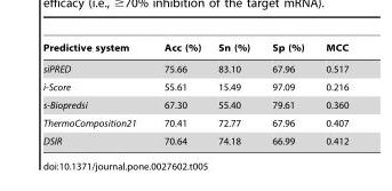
<table><thead><tr><td>Predictive system</td><td>Acc (%)</td><td>Sn (%)</td><td>Sp (%)</td><td>MCC</td></tr></thead><tbody><tr><td>siPRED</td><td>75.66</td><td>83.10</td><td>67.96</td><td>0.517</td></tr><tr><td>i-Score</td><td>55.61</td><td>15.49</td><td>97.09</td><td>0.216</td></tr><tr><td>s-Biopredsi</td><td>67.30</td><td>55.40</td><td>79.61</td><td>0.360</td></tr><tr><td>ThermoComposition21</td><td>70.41</td><td>72.77</td><td>67.96</td><td>0.407</td></tr><tr><td>DSIR</td><td>70.64</td><td>74.18</td><td>66.99</td><td>0.412</td></tr></tbody></table>